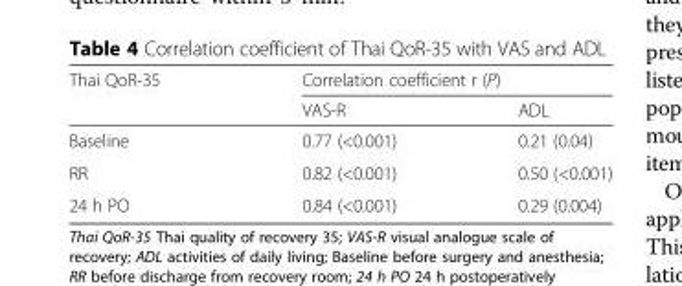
<table><thead><tr><td rowspan="2">Thai QoR-35</td><td colspan="2">Correlation coefficient r (P)</td></tr><tr><td>VAS-R</td><td>ADL</td></tr></thead><tbody><tr><td>Baseline</td><td>0.77 (&lt;0.001)</td><td>0.21 (0.04)</td></tr><tr><td>RR</td><td>0.82 (&lt;0.001)</td><td>0.50 (&lt;0.001)</td></tr><tr><td>24 h PO</td><td>0.84 (&lt;0.001)</td><td>0.29 (0.004)</td></tr></tbody></table>